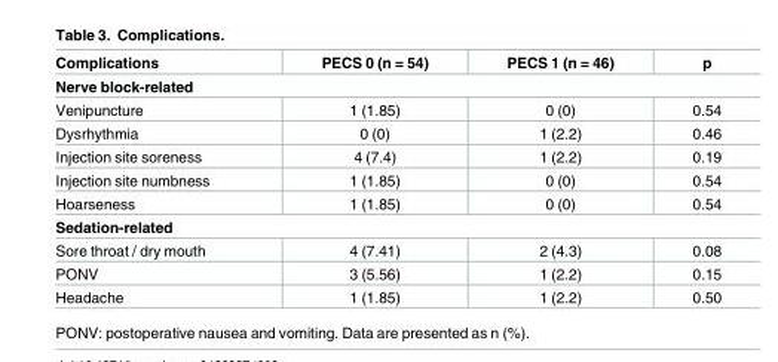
<table><thead><tr><td>Complications</td><td>PECS 0 (n = 54)</td><td>PECS 1 (n = 46)</td><td>p</td></tr></thead><tbody><tr><td colspan="4">Nerve block-related</td></tr><tr><td>Venipuncture</td><td>1 (1.85)</td><td>0 (0)</td><td>0.54</td></tr><tr><td>Dysrhythmia</td><td>0 (0)</td><td>1 (2.2)</td><td>0.46</td></tr><tr><td>Injection site soreness</td><td>4 (7.4)</td><td>1 (2.2)</td><td>0.19</td></tr><tr><td>Injection site numbness</td><td>1 (1.85)</td><td>0 (0)</td><td>0.54</td></tr><tr><td>Hoarseness</td><td>1 (1.85)</td><td>0 (0)</td><td>0.54</td></tr><tr><td colspan="4">Sedation-related</td></tr><tr><td>Sore throat / dry mouth</td><td>4 (7.41)</td><td>2 (4.3)</td><td>0.08</td></tr><tr><td>PONV</td><td>3 (5.56)</td><td>1 (2.2)</td><td>0.15</td></tr><tr><td>Headache</td><td>1 (1.85)</td><td>1 (2.2)</td><td>0.50</td></tr></tbody></table>